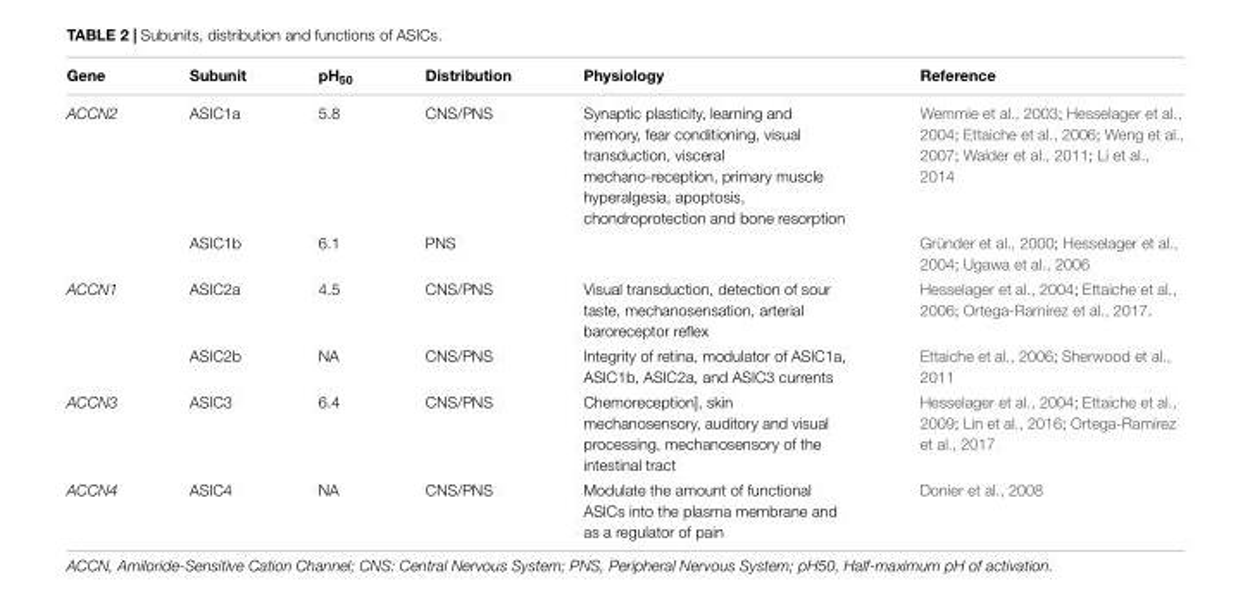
<table><thead><tr><td>Gene</td><td>Subunit</td><td>pH<sub>50</sub></td><td>Distribution</td><td>Physiology</td><td>Reference</td></tr></thead><tbody><tr><td rowspan="2">ACCN2</td><td>ASIC1a</td><td>5.8</td><td>CNS/PNS</td><td>Synaptic plasticity, learning and memory, fear conditioning, visual transduction, visceral mechano-reception, primary muscle hyperalgesia, apoptosis, chondroprotection and bone resorption</td><td>Wemmie et al., 2003; Hesselager et al., 2004; Ettaiche et al., 2006; Weng et al., 2007; Walder et al., 2011; Li et al., 2014</td></tr><tr><td>ASIC1b</td><td>6.1</td><td>PNS</td><td></td><td>Gründer et al., 2000; Hesselager et al., 2004; Ugawa et al., 2006</td></tr><tr><td rowspan="2">ACCN1</td><td>ASIC2a</td><td>4.5</td><td>CNS/PNS</td><td>Visual transduction, detection of sour taste, mechanosensation, arterial baroreceptor reflex</td><td>Hesselager et al., 2004; Ettaiche et al., 2006; Ortega-Ramírez et al., 2017.</td></tr><tr><td>ASIC2b</td><td>NA</td><td>CNS/PNS</td><td>Integrity of retina, modulator of ASIC1a, ASIC1b, ASIC2a, and ASIC3 currents</td><td>Ettaiche et al., 2006; Sherwood et al., 2011</td></tr><tr><td>ACCN3</td><td>ASIC3</td><td>6.4</td><td>CNS/PNS</td><td>Chemoreception], skin mechanosensory, auditory and visual processing, mechanosensory of the intestinal tract</td><td>Hesselager et al., 2004; Ettaiche et al., 2009; Lin et al., 2016; Ortega-Ramírez et al., 2017</td></tr><tr><td>ACCN4</td><td>ASIC4</td><td>NA</td><td>CNS/PNS</td><td>Modulate the amount of functional ASICs into the plasma membrane and as a regulator of pain</td><td>Donier et al., 2008</td></tr></tbody></table>